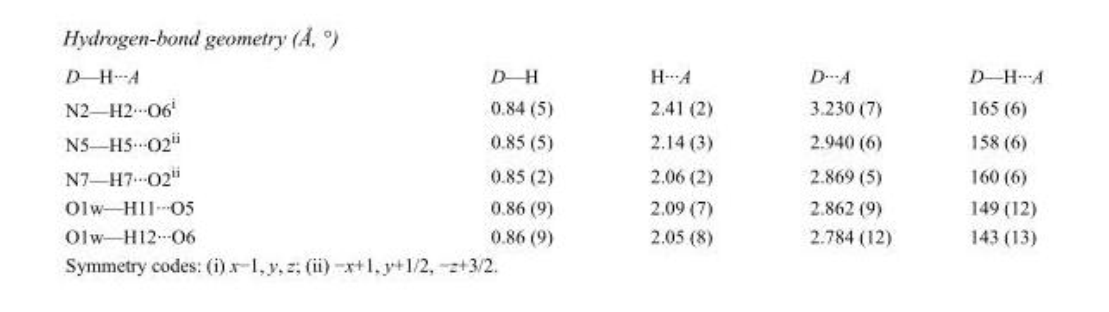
<table><tbody><tr><td>D—H···A</td><td>D—H</td><td>H···A</td><td>D···A</td><td>D—H···A</td></tr><tr><td>N2—H2···O6<sup>i</sup></td><td>0.84 (5)</td><td>2.41 (2)</td><td>3.230 (7)</td><td>165 (6)</td></tr><tr><td>N5—H5···O2<sup>ii</sup></td><td>0.85 (5)</td><td>2.14 (3)</td><td>2.940 (6)</td><td>158 (6)</td></tr><tr><td>N7—H7···O2<sup>ii</sup></td><td>0.85 (2)</td><td>2.06 (2)</td><td>2.869 (5)</td><td>160 (6)</td></tr><tr><td>O1w—H11···O5</td><td>0.86 (9)</td><td>2.09 (7)</td><td>2.862 (9)</td><td>149 (12)</td></tr><tr><td>O1w—H12···O6</td><td>0.86 (9)</td><td>2.05 (8)</td><td>2.784 (12)</td><td>143 (13)</td></tr></tbody></table>